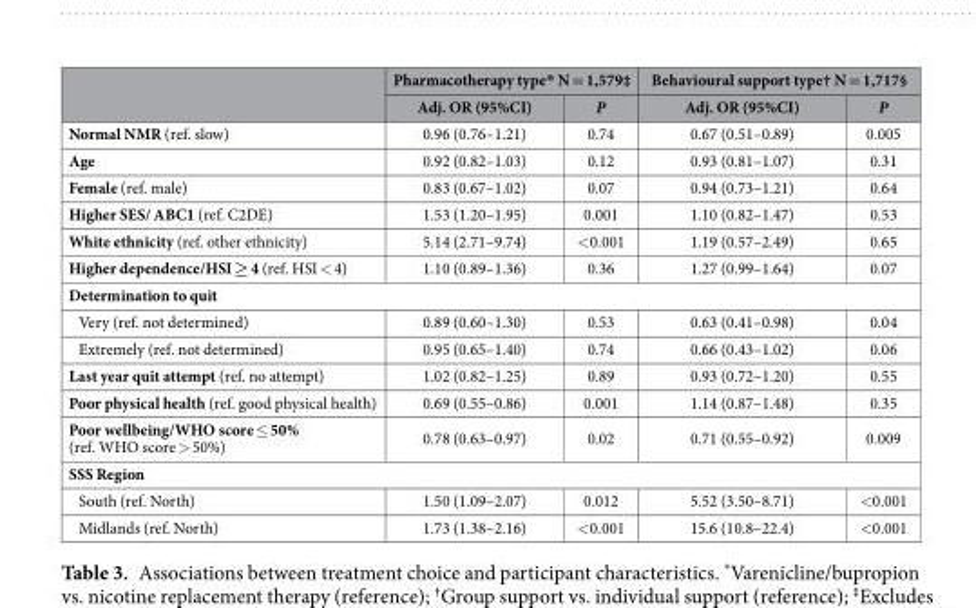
<table><thead><tr><td rowspan="2"></td><td colspan="2">Pharmacotherapy type* N = 1,579‡</td><td colspan="2">Behavioural support type† N = 1,717§</td></tr><tr><td>Adj. OR (95%CI)</td><td>P</td><td>Adj. OR (95%CI)</td><td>P</td></tr></thead><tbody><tr><td>Normal NMR (ref. slow)</td><td>0.96 (0.76–1.21)</td><td>0.74</td><td>0.67 (0.51–0.89)</td><td>0.005</td></tr><tr><td>Age</td><td>0.92 (0.82–1.03)</td><td>0.12</td><td>0.93 (0.81–1.07)</td><td>0.31</td></tr><tr><td>Female (ref. male)</td><td>0.83 (0.67–1.02)</td><td>0.07</td><td>0.94 (0.73–1.21)</td><td>0.64</td></tr><tr><td>Higher SES/ ABC1 (ref. C2DE)</td><td>1.53 (1.20–1.95)</td><td>0.001</td><td>1.10 (0.82–1.47)</td><td>0.53</td></tr><tr><td>White ethnicity (ref. other ethnicity)</td><td>5.14 (2.71–9.74)</td><td>&lt;0.001</td><td>1.19 (0.57–2.49)</td><td>0.65</td></tr><tr><td>Higher dependence/HSI ≥ 4 (ref. HSI &lt; 4)</td><td>1.10 (0.89–1.36)</td><td>0.36</td><td>1.27 (0.99–1.64)</td><td>0.07</td></tr><tr><td colspan="5">Determination to quit</td></tr><tr><td>Very (ref. not determined)</td><td>0.89 (0.60–1.30)</td><td>0.53</td><td>0.63 (0.41–0.98)</td><td>0.04</td></tr><tr><td>Extremely (ref. not determined)</td><td>0.95 (0.65–1.40)</td><td>0.74</td><td>0.66 (0.43–1.02)</td><td>0.06</td></tr><tr><td>Last year quit attempt (ref. no attempt)</td><td>1.02 (0.82–1.25)</td><td>0.89</td><td>0.93 (0.72–1.20)</td><td>0.55</td></tr><tr><td>Poor physical health (ref. good physical health)</td><td>0.69 (0.55–0.86)</td><td>0.001</td><td>1.14 (0.87–1.48)</td><td>0.35</td></tr><tr><td>Poor wellbeing/WHO score ≤ 50% (ref. WHO score &gt; 50%)</td><td>0.78 (0.63–0.97)</td><td>0.02</td><td>0.71 (0.55–0.92)</td><td>0.009</td></tr><tr><td colspan="5">SSS Region</td></tr><tr><td>South (ref. North)</td><td>1.50 (1.09–2.07)</td><td>0.012</td><td>5.52 (3.50–8.71)</td><td>&lt;0.001</td></tr><tr><td>Midlands (ref. North)</td><td>1.73 (1.38–2.16)</td><td>&lt;0.001</td><td>15.6 (10.8–22.4)</td><td>&lt;0.001</td></tr></tbody></table>